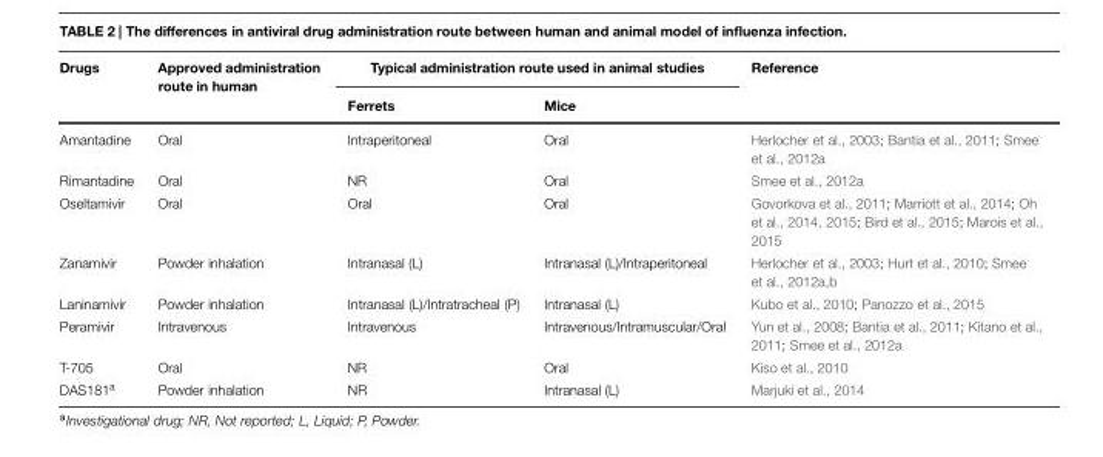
<table><thead><tr><td rowspan="2">Drugs</td><td rowspan="2">Approved administration route in human</td><td colspan="2">Typical administration route used in animal studies</td><td rowspan="2">Reference</td></tr><tr><td>Ferrets</td><td>Mice</td></tr></thead><tbody><tr><td>Amantadine</td><td>Oral</td><td>Intraperitoneal</td><td>Oral</td><td>Herlocher et al., 2003; Bantia et al., 2011; Smee et al., 2012a</td></tr><tr><td>Rimantadine</td><td>Oral</td><td>NR</td><td>Oral</td><td>Smee et al., 2012a</td></tr><tr><td>Oseltamivir</td><td>Oral</td><td>Oral</td><td>Oral</td><td>Govorkova et al., 2011; Marriott et al., 2014; Oh et al., 2014, 2015; Bird et al., 2015; Marois et al., 2015</td></tr><tr><td>Zanamivir</td><td>Powder inhalation</td><td>Intranasal (L)</td><td>Intranasal (L)/Intraperitoneal</td><td>Herlocher et al., 2003; Hurt et al., 2010; Smee et al., 2012a,b</td></tr><tr><td>Laninamivir</td><td>Powder inhalation</td><td>Intranasal (L)/Intratracheal (P)</td><td>Intranasal (L)</td><td>Kubo et al., 2010; Panozzo et al., 2015</td></tr><tr><td>Peramivir</td><td>Intravenous</td><td>Intravenous</td><td>Intravenous/Intramuscular/Oral</td><td>Yun et al., 2008; Bantia et al., 2011; Kitano et al., 2011; Smee et al., 2012a</td></tr><tr><td>T-705</td><td>Oral</td><td>NR</td><td>Oral</td><td>Kiso et al., 2010</td></tr><tr><td>DAS181<sup>a</sup></td><td>Powder inhalation</td><td>NR</td><td>Intranasal (L)</td><td>Marjuki et al., 2014</td></tr></tbody></table>